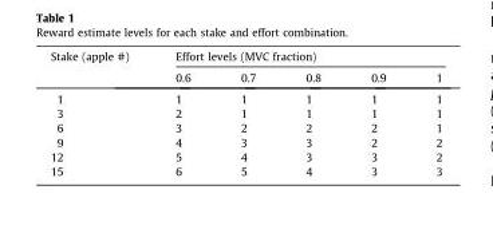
<table><thead><tr><td rowspan="2">Stake (apple #)</td><td colspan="5">Effort levels (MVC fraction)</td></tr><tr><td>0.6</td><td>0.7</td><td>0.8</td><td>0.9</td><td>1</td></tr></thead><tbody><tr><td>1</td><td>1</td><td>1</td><td>1</td><td>1</td><td>1</td></tr><tr><td>3</td><td>2</td><td>1</td><td>1</td><td>1</td><td>1</td></tr><tr><td>6</td><td>3</td><td>2</td><td>2</td><td>2</td><td>1</td></tr><tr><td>9</td><td>4</td><td>3</td><td>3</td><td>2</td><td>2</td></tr><tr><td>12</td><td>5</td><td>4</td><td>3</td><td>3</td><td>2</td></tr><tr><td>15</td><td>6</td><td>5</td><td>4</td><td>3</td><td>3</td></tr></tbody></table>